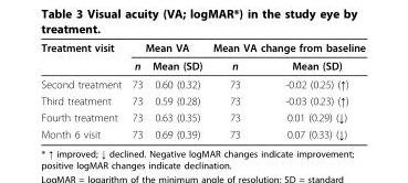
<table><thead><tr><td rowspan="2">Treatment visit</td><td colspan="2">Mean VA</td><td colspan="2">Mean VA change from baseline</td></tr><tr><td>n</td><td>Mean (SD)</td><td>n</td><td>Mean (SD)</td></tr></thead><tbody><tr><td>Second treatment</td><td>73</td><td>0.60 (0.32)</td><td>73</td><td>-0.02 (0.25) (↑)</td></tr><tr><td>Third treatment</td><td>73</td><td>0.59 (0.28)</td><td>73</td><td>-0.03 (0.23) (↑)</td></tr><tr><td>Fourth treatment</td><td>73</td><td>0.63 (0.35)</td><td>73</td><td>0.01 (0.29) (↓)</td></tr><tr><td>Month 6 visit</td><td>73</td><td>0.69 (0.39)</td><td>73</td><td>0.07 (0.33) (↓)</td></tr></tbody></table>